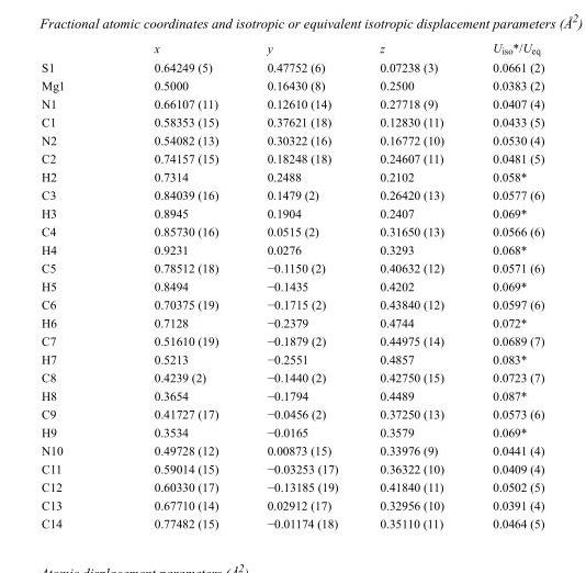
<table><thead><tr><td></td><td>x</td><td>y</td><td>z</td><td>U<sub>iso</sub>*/U<sub>eq</sub></td></tr></thead><tbody><tr><td>S1</td><td>0.64249 (5)</td><td>0.47752 (6)</td><td>0.07238 (3)</td><td>0.0661 (2)</td></tr><tr><td>Mg1</td><td>0.5000</td><td>0.16430 (8)</td><td>0.2500</td><td>0.0383 (2)</td></tr><tr><td>N1</td><td>0.66107 (11)</td><td>0.12610 (14)</td><td>0.27718 (9)</td><td>0.0407 (4)</td></tr><tr><td>C1</td><td>0.58353 (15)</td><td>0.37621 (18)</td><td>0.12830 (11)</td><td>0.0433 (5)</td></tr><tr><td>N2</td><td>0.54082 (13)</td><td>0.30322 (16)</td><td>0.16772 (10)</td><td>0.0530 (4)</td></tr><tr><td>C2</td><td>0.74157 (15)</td><td>0.18248 (18)</td><td>0.24607 (11)</td><td>0.0481 (5)</td></tr><tr><td>H2</td><td>0.7314</td><td>0.2488</td><td>0.2102</td><td>0.058*</td></tr><tr><td>C3</td><td>0.84039 (16)</td><td>0.1479 (2)</td><td>0.26420 (13)</td><td>0.0577 (6)</td></tr><tr><td>H3</td><td>0.8945</td><td>0.1904</td><td>0.2407</td><td>0.069*</td></tr><tr><td>C4</td><td>0.85730 (16)</td><td>0.0515 (2)</td><td>0.31650 (13)</td><td>0.0566 (6)</td></tr><tr><td>H4</td><td>0.9231</td><td>0.0276</td><td>0.3293</td><td>0.068*</td></tr><tr><td>C5</td><td>0.78512 (18)</td><td>−0.1150 (2)</td><td>0.40632 (12)</td><td>0.0571 (6)</td></tr><tr><td>H5</td><td>0.8494</td><td>−0.1435</td><td>0.4202</td><td>0.069*</td></tr><tr><td>C6</td><td>0.70375 (19)</td><td>−0.1715 (2)</td><td>0.43840 (12)</td><td>0.0597 (6)</td></tr><tr><td>H6</td><td>0.7128</td><td>−0.2379</td><td>0.4744</td><td>0.072*</td></tr><tr><td>C7</td><td>0.51610 (19)</td><td>−0.1879 (2)</td><td>0.44975 (14)</td><td>0.0689 (7)</td></tr><tr><td>H7</td><td>0.5213</td><td>−0.2551</td><td>0.4857</td><td>0.083*</td></tr><tr><td>C8</td><td>0.4239 (2)</td><td>−0.1440 (2)</td><td>0.42750 (15)</td><td>0.0723 (7)</td></tr><tr><td>H8</td><td>0.3654</td><td>−0.1794</td><td>0.4489</td><td>0.087*</td></tr><tr><td>C9</td><td>0.41727 (17)</td><td>−0.0456 (2)</td><td>0.37250 (13)</td><td>0.0573 (6)</td></tr><tr><td>H9</td><td>0.3534</td><td>−0.0165</td><td>0.3579</td><td>0.069*</td></tr><tr><td>N10</td><td>0.49728 (12)</td><td>0.00873 (15)</td><td>0.33976 (9)</td><td>0.0441 (4)</td></tr><tr><td>C11</td><td>0.59014 (15)</td><td>−0.03253 (17)</td><td>0.36322 (10)</td><td>0.0409 (4)</td></tr><tr><td>C12</td><td>0.60330 (17)</td><td>−0.13185 (19)</td><td>0.41840 (11)</td><td>0.0502 (5)</td></tr><tr><td>C13</td><td>0.67710 (14)</td><td>0.02912 (17)</td><td>0.32956 (10)</td><td>0.0391 (4)</td></tr><tr><td>C14</td><td>0.77482 (15)</td><td>−0.01174 (18)</td><td>0.35110 (11)</td><td>0.0464 (5)</td></tr></tbody></table>